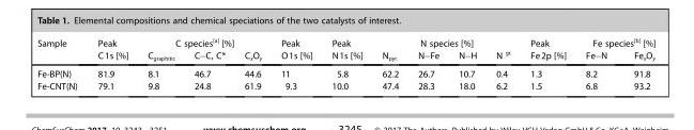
<table><thead><tr><td rowspan="2">Sample</td><td rowspan="2">Peak C1s [%]</td><td colspan="3">C species<sup>[a]</sup> [%]</td><td rowspan="2">Peak O1s [%]</td><td rowspan="2">Peak N1s [%]</td><td colspan="4">N species [%]</td><td rowspan="2">Peak Fe2p [%]</td><td colspan="2">Fe species<sup>[b]</sup> [%]</td></tr><tr><td>C<sub>graphitic</sub></td><td>C−C, C*</td><td>C<sub>x</sub>O<sub>y</sub></td><td>N<sub>pyr.</sub></td><td>N−Fe</td><td>N−H</td><td>N <sup>gr.</sup></td><td>Fe−N</td><td>Fe<sub>x</sub>O<sub>y</sub></td></tr></thead><tbody><tr><td>Fe-BP(N)</td><td>81.9</td><td>8.1</td><td>46.7</td><td>44.6</td><td>11</td><td>5.8</td><td>62.2</td><td>26.7</td><td>10.7</td><td>0.4</td><td>1.3</td><td>8.2</td><td>91.8</td></tr><tr><td>Fe-CNT(N)</td><td>79.1</td><td>9.8</td><td>24.8</td><td>61.9</td><td>9.3</td><td>10.0</td><td>47.4</td><td>28.3</td><td>18.0</td><td>6.2</td><td>1.5</td><td>6.8</td><td>93.2</td></tr></tbody></table>